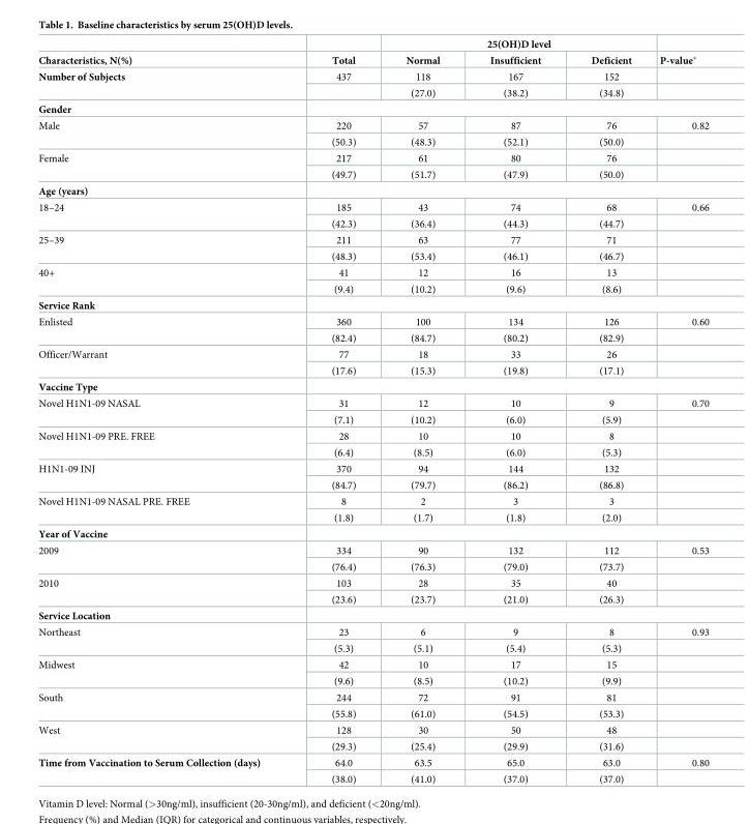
<table><thead><tr><td rowspan="2">Characteristics, N(%)</td><td rowspan="2">Total</td><td colspan="3">25(OH)D level</td><td rowspan="2">P-value*</td></tr><tr><td>Normal</td><td>Insufficient</td><td>Deficient</td></tr></thead><tbody><tr><td rowspan="2">Number of Subjects</td><td>437</td><td>118</td><td>167</td><td>152</td><td></td></tr><tr><td></td><td>(27.0)</td><td>(38.2)</td><td>(34.8)</td><td></td></tr><tr><td colspan="6">Gender</td></tr><tr><td rowspan="2">Male</td><td>220</td><td>57</td><td>87</td><td>76</td><td>0.82</td></tr><tr><td>(50.3)</td><td>(48.3)</td><td>(52.1)</td><td>(50.0)</td><td></td></tr><tr><td rowspan="2">Female</td><td>217</td><td>61</td><td>80</td><td>76</td><td></td></tr><tr><td>(49.7)</td><td>(51.7)</td><td>(47.9)</td><td>(50.0)</td><td></td></tr><tr><td colspan="6">Age (years)</td></tr><tr><td rowspan="2">18–24</td><td>185</td><td>43</td><td>74</td><td>68</td><td>0.66</td></tr><tr><td>(42.3)</td><td>(36.4)</td><td>(44.3)</td><td>(44.7)</td><td></td></tr><tr><td rowspan="2">25–39</td><td>211</td><td>63</td><td>77</td><td>71</td><td></td></tr><tr><td>(48.3)</td><td>(53.4)</td><td>(46.1)</td><td>(46.7)</td><td></td></tr><tr><td rowspan="2">40+</td><td>41</td><td>12</td><td>16</td><td>13</td><td></td></tr><tr><td>(9.4)</td><td>(10.2)</td><td>(9.6)</td><td>(8.6)</td><td></td></tr><tr><td colspan="6">Service Rank</td></tr><tr><td rowspan="2">Enlisted</td><td>360</td><td>100</td><td>134</td><td>126</td><td>0.60</td></tr><tr><td>(82.4)</td><td>(84.7)</td><td>(80.2)</td><td>(82.9)</td><td></td></tr><tr><td rowspan="2">Officer/Warrant</td><td>77</td><td>18</td><td>33</td><td>26</td><td></td></tr><tr><td>(17.6)</td><td>(15.3)</td><td>(19.8)</td><td>(17.1)</td><td></td></tr><tr><td colspan="6">Vaccine Type</td></tr><tr><td rowspan="2">Novel H1N1-09 NASAL</td><td>31</td><td>12</td><td>10</td><td>9</td><td>0.70</td></tr><tr><td>(7.1)</td><td>(10.2)</td><td>(6.0)</td><td>(5.9)</td><td></td></tr><tr><td rowspan="2">Novel H1N1-09 PRE. FREE</td><td>28</td><td>10</td><td>10</td><td>8</td><td></td></tr><tr><td>(6.4)</td><td>(8.5)</td><td>(6.0)</td><td>(5.3)</td><td></td></tr><tr><td rowspan="2">H1N1-09 INJ</td><td>370</td><td>94</td><td>144</td><td>132</td><td></td></tr><tr><td>(84.7)</td><td>(79.7)</td><td>(86.2)</td><td>(86.8)</td><td></td></tr><tr><td rowspan="2">Novel H1N1-09 NASAL PRE. FREE</td><td>8</td><td>2</td><td>3</td><td>3</td><td></td></tr><tr><td>(1.8)</td><td>(1.7)</td><td>(1.8)</td><td>(2.0)</td><td></td></tr><tr><td colspan="6">Year of Vaccine</td></tr><tr><td rowspan="2">2009</td><td>334</td><td>90</td><td>132</td><td>112</td><td>0.53</td></tr><tr><td>(76.4)</td><td>(76.3)</td><td>(79.0)</td><td>(73.7)</td><td></td></tr><tr><td rowspan="2">2010</td><td>103</td><td>28</td><td>35</td><td>40</td><td></td></tr><tr><td>(23.6)</td><td>(23.7)</td><td>(21.0)</td><td>(26.3)</td><td></td></tr><tr><td colspan="6">Service Location</td></tr><tr><td rowspan="2">Northeast</td><td>23</td><td>6</td><td>9</td><td>8</td><td>0.93</td></tr><tr><td>(5.3)</td><td>(5.1)</td><td>(5.4)</td><td>(5.3)</td><td></td></tr><tr><td rowspan="2">Midwest</td><td>42</td><td>10</td><td>17</td><td>15</td><td></td></tr><tr><td>(9.6)</td><td>(8.5)</td><td>(10.2)</td><td>(9.9)</td><td></td></tr><tr><td rowspan="2">South</td><td>244</td><td>72</td><td>91</td><td>81</td><td></td></tr><tr><td>(55.8)</td><td>(61.0)</td><td>(54.5)</td><td>(53.3)</td><td></td></tr><tr><td rowspan="2">West</td><td>128</td><td>30</td><td>50</td><td>48</td><td></td></tr><tr><td>(29.3)</td><td>(25.4)</td><td>(29.9)</td><td>(31.6)</td><td></td></tr><tr><td rowspan="2">Time from Vaccination to Serum Collection (days)</td><td>64.0</td><td>63.5</td><td>65.0</td><td>63.0</td><td>0.80</td></tr><tr><td>(38.0)</td><td>(41.0)</td><td>(37.0)</td><td>(37.0)</td><td></td></tr></tbody></table>